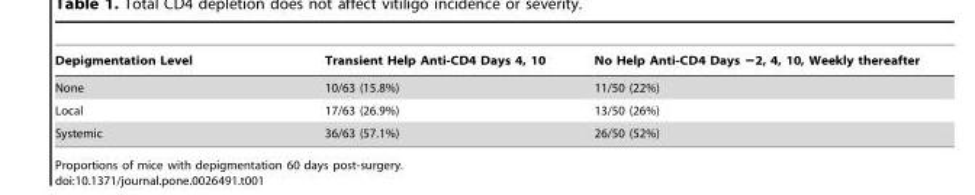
<table><thead><tr><td>Depigmentation Level</td><td>Transient Help Anti-CD4 Days 4, 10</td><td>No Help Anti-CD4 Days −2, 4, 10, Weekly thereafter</td></tr></thead><tbody><tr><td>None</td><td>10/63 (15.8%)</td><td>11/50 (22%)</td></tr><tr><td>Local</td><td>17/63 (26.9%)</td><td>13/50 (26%)</td></tr><tr><td>Systemic</td><td>36/63 (57.1%)</td><td>26/50 (52%)</td></tr></tbody></table>